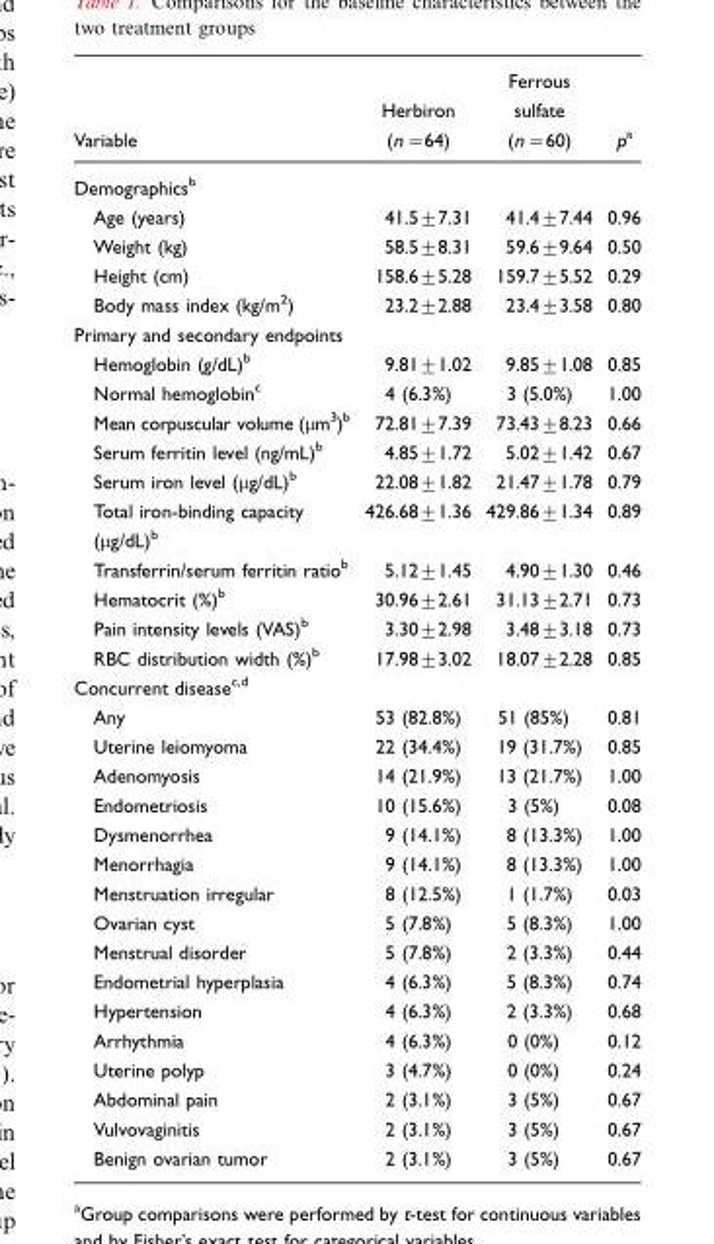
<table><thead><tr><td>Variable</td><td>Herbiron (n=64)</td><td>Ferrous sulfate (n=60)</td><td>p<sup>a</sup></td></tr></thead><tbody><tr><td colspan="4">Demographics<sup>b</sup></td></tr><tr><td>Age (years)</td><td>41.5±7.31</td><td>41.4±7.44</td><td>0.96</td></tr><tr><td>Weight (kg)</td><td>58.5±8.31</td><td>59.6±9.64</td><td>0.50</td></tr><tr><td>Height (cm)</td><td>158.6±5.28</td><td>159.7±5.52</td><td>0.29</td></tr><tr><td>Body mass index (kg/m<sup>2</sup>)</td><td>23.2±2.88</td><td>23.4±3.58</td><td>0.80</td></tr><tr><td colspan="4">Primary and secondary endpoints</td></tr><tr><td>Hemoglobin (g/dL)<sup>b</sup></td><td>9.81±1.02</td><td>9.85±1.08</td><td>0.85</td></tr><tr><td>Normal hemoglobin<sup>c</sup></td><td>4 (6.3%)</td><td>3 (5.0%)</td><td>1.00</td></tr><tr><td>Mean corpuscular volume (µm<sup>3</sup>)<sup>b</sup></td><td>72.81±7.39</td><td>73.43±8.23</td><td>0.66</td></tr><tr><td>Serum ferritin level (ng/mL)<sup>b</sup></td><td>4.85±1.72</td><td>5.02±1.42</td><td>0.67</td></tr><tr><td>Serum iron level (µg/dL)<sup>b</sup></td><td>22.08±1.82</td><td>21.47±1.78</td><td>0.79</td></tr><tr><td>Total iron-binding capacity (µg/dL)<sup>b</sup></td><td>426.68±1.36</td><td>429.86±1.34</td><td>0.89</td></tr><tr><td>Transferrin/serum ferritin ratio<sup>b</sup></td><td>5.12±1.45</td><td>4.90±1.30</td><td>0.46</td></tr><tr><td>Hematocrit (%)<sup>b</sup></td><td>30.96±2.61</td><td>31.13±2.71</td><td>0.73</td></tr><tr><td>Pain intensity levels (VAS)<sup>b</sup></td><td>3.30±2.98</td><td>3.48±3.18</td><td>0.73</td></tr><tr><td>RBC distribution width (%)<sup>b</sup></td><td>17.98±3.02</td><td>18.07±2.28</td><td>0.85</td></tr><tr><td colspan="4">Concurrent disease<sup>c,d</sup></td></tr><tr><td>Any</td><td>53 (82.8%)</td><td>51 (85%)</td><td>0.81</td></tr><tr><td>Uterine leiomyoma</td><td>22 (34.4%)</td><td>19 (31.7%)</td><td>0.85</td></tr><tr><td>Adenomyosis</td><td>14 (21.9%)</td><td>13 (21.7%)</td><td>1.00</td></tr><tr><td>Endometriosis</td><td>10 (15.6%)</td><td>3 (5%)</td><td>0.08</td></tr><tr><td>Dysmenorrhea</td><td>9 (14.1%)</td><td>8 (13.3%)</td><td>1.00</td></tr><tr><td>Menorrhagia</td><td>9 (14.1%)</td><td>8 (13.3%)</td><td>1.00</td></tr><tr><td>Menstruation irregular</td><td>8 (12.5%)</td><td>1 (1.7%)</td><td>0.03</td></tr><tr><td>Ovarian cyst</td><td>5 (7.8%)</td><td>5 (8.3%)</td><td>1.00</td></tr><tr><td>Menstrual disorder</td><td>5 (7.8%)</td><td>2 (3.3%)</td><td>0.44</td></tr><tr><td>Endometrial hyperplasia</td><td>4 (6.3%)</td><td>5 (8.3%)</td><td>0.74</td></tr><tr><td>Hypertension</td><td>4 (6.3%)</td><td>2 (3.3%)</td><td>0.68</td></tr><tr><td>Arrhythmia</td><td>4 (6.3%)</td><td>0 (0%)</td><td>0.12</td></tr><tr><td>Uterine polyp</td><td>3 (4.7%)</td><td>0 (0%)</td><td>0.24</td></tr><tr><td>Abdominal pain</td><td>2 (3.1%)</td><td>3 (5%)</td><td>0.67</td></tr><tr><td>Vulvovaginitis</td><td>2 (3.1%)</td><td>3 (5%)</td><td>0.67</td></tr><tr><td>Benign ovarian tumor</td><td>2 (3.1%)</td><td>3 (5%)</td><td>0.67</td></tr></tbody></table>